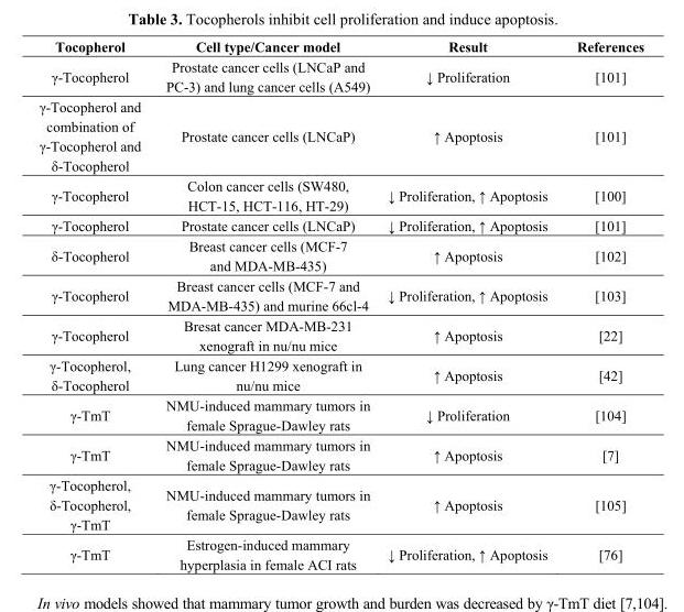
<table><thead><tr><td>Tocopherol</td><td>Cell type/Cancer model</td><td>Result</td><td>References</td></tr></thead><tbody><tr><td>γ-Tocopherol</td><td>Prostate cancer cells (LNCaP and PC-3) and lung cancer cells (A549)</td><td>↓ Proliferation</td><td>[101]</td></tr><tr><td>γ-Tocopherol and combination of γ-Tocopherol and δ-Tocopherol</td><td>Prostate cancer cells (LNCaP)</td><td>↑ Apoptosis</td><td>[101]</td></tr><tr><td>γ-Tocopherol</td><td>Colon cancer cells (SW480, HCT-15, HCT-116, HT-29)</td><td>↓ Proliferation, ↑ Apoptosis</td><td>[100]</td></tr><tr><td>γ-Tocopherol</td><td>Prostate cancer cells (LNCaP)</td><td>↓ Proliferation, ↑ Apoptosis</td><td>[101]</td></tr><tr><td>δ-Tocopherol</td><td>Breast cancer cells (MCF-7 and MDA-MB-435)</td><td>↑ Apoptosis</td><td>[102]</td></tr><tr><td>γ-Tocopherol</td><td>Breast cancer cells (MCF-7 and MDA-MB-435) and murine 66cl-4</td><td>↓ Proliferation, ↑ Apoptosis</td><td>[103]</td></tr><tr><td>γ-Tocopherol</td><td>Bresat cancer MDA-MB-231 xenograft in nu/nu mice</td><td>↑ Apoptosis</td><td>[22]</td></tr><tr><td>γ-Tocopherol, δ-Tocopherol</td><td>Lung cancer H1299 xenograft in nu/nu mice</td><td>↑ Apoptosis</td><td>[42]</td></tr><tr><td>γ-TmT</td><td>NMU-induced mammary tumors in female Sprague-Dawley rats</td><td>↓ Proliferation</td><td>[104]</td></tr><tr><td>γ-TmT</td><td>NMU-induced mammary tumors in female Sprague-Dawley rats</td><td>↑ Apoptosis</td><td>[7]</td></tr><tr><td>γ-Tocopherol, δ-Tocopherol, γ-TmT</td><td>NMU-induced mammary tumors in female Sprague-Dawley rats</td><td>↑ Apoptosis</td><td>[105]</td></tr><tr><td>γ-TmT</td><td>Estrogen-induced mammary hyperplasia in female ACI rats</td><td>↓ Proliferation, ↑ Apoptosis</td><td>[76]</td></tr></tbody></table>